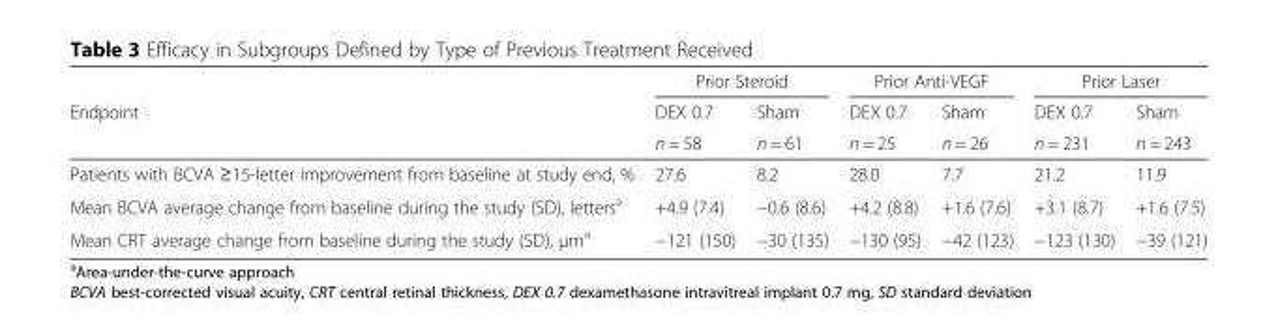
<table><thead><tr><td rowspan="3">Endpoint</td><td colspan="2">Prior Steroid</td><td colspan="2">Prior Anti-VEGF</td><td colspan="2">Prior Laser</td></tr><tr><td rowspan="2">DEX 0.7 n = 58</td><td rowspan="2">Sham n = 61</td><td rowspan="2">DEX 0.7 n = 25</td><td rowspan="2">Sham n = 26</td><td rowspan="2">DEX 0.7 n = 231</td><td rowspan="2">Sham n = 243</td></tr><tr></tr></thead><tbody><tr><td>Patients with BCVA ≥15-letter improvement from baseline at study end, %</td><td>27.6</td><td>8.2</td><td>28.0</td><td>7.7</td><td>21.2</td><td>11.9</td></tr><tr><td>Mean BCVA average change from baseline during the study (SD), letters<sup>a</sup></td><td>+4.9 (7.4)</td><td>−0.6 (8.6)</td><td>+4.2 (8.8)</td><td>+1.6 (7.6)</td><td>+3.1 (8.7)</td><td>+1.6 (7.5)</td></tr><tr><td>Mean CRT average change from baseline during the study (SD), μm<sup>a</sup></td><td>−121 (150)</td><td>−30 (135)</td><td>−130 (95)</td><td>−42 (123)</td><td>−123 (130)</td><td>−39 (121)</td></tr></tbody></table>